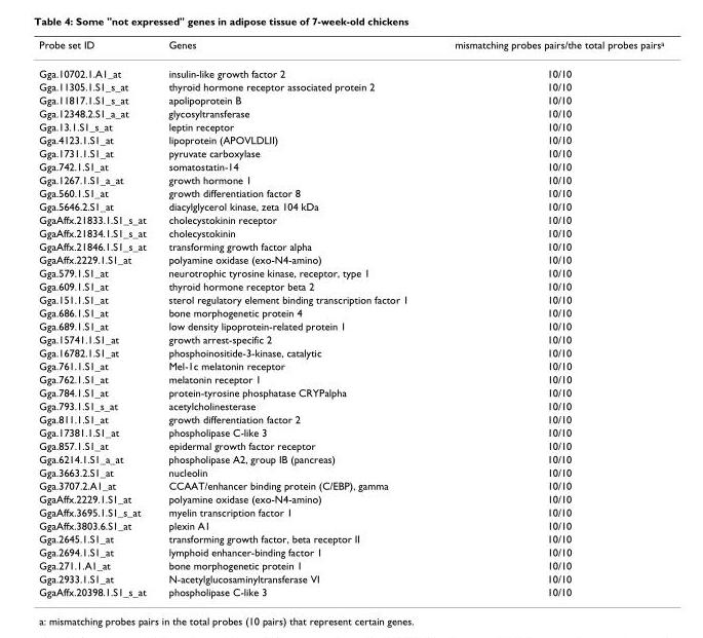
<table><thead><tr><td>Probe set ID</td><td>Genes</td><td>mismatching probes pairs/the total probes pairs<sup>a</sup></td></tr></thead><tbody><tr><td>Gga.10702.1.A1_at</td><td>insulin-like growth factor 2</td><td>10/10</td></tr><tr><td>Gga.11305.1.S1_s_at</td><td>thyroid hormone receptor associated protein 2</td><td>10/10</td></tr><tr><td>Gga.11817.1.S1_s_at</td><td>apolipoprotein B</td><td>10/10</td></tr><tr><td>Gga.12348.2.S1_a_at</td><td>glycosyltransferase</td><td>10/10</td></tr><tr><td>Gga.13.1.S1_s_at</td><td>leptin receptor</td><td>10/10</td></tr><tr><td>Gga.4123.1.S1_at</td><td>lipoprotein (APOVLDLII)</td><td>10/10</td></tr><tr><td>Gga.1731.1.S1_at</td><td>pyruvate carboxylase</td><td>10/10</td></tr><tr><td>Gga.742.1.S1_at</td><td>somatostatin-14</td><td>10/10</td></tr><tr><td>Gga.1267.1.S1_a_at</td><td>growth hormone 1</td><td>10/10</td></tr><tr><td>Gga.560.1.S1_at</td><td>growth differentiation factor 8</td><td>10/10</td></tr><tr><td>Gga.5646.2.S1_at</td><td>diacylglycerol kinase, zeta 104 kDa</td><td>10/10</td></tr><tr><td>GgaAffx.21833.1.S1_s_at</td><td>cholecystokinin receptor</td><td>10/10</td></tr><tr><td>GgaAffx.21834.1.S1_s_at</td><td>cholecystokinin</td><td>10/10</td></tr><tr><td>GgaAffx.21846.1.S1_s_at</td><td>transforming growth factor alpha</td><td>10/10</td></tr><tr><td>GgaAffx.2229.1.S1_at</td><td>polyamine oxidase (exo-N4-amino)</td><td>10/10</td></tr><tr><td>Gga.579.1.S1_at</td><td>neurotrophic tyrosine kinase, receptor, type 1</td><td>10/10</td></tr><tr><td>Gga.609.1.S1_at</td><td>thyroid hormone receptor beta 2</td><td>10/10</td></tr><tr><td>Gga.151.1.S1_at</td><td>sterol regulatory element binding transcription factor 1</td><td>10/10</td></tr><tr><td>Gga.686.1.S1_at</td><td>bone morphogenetic protein 4</td><td>10/10</td></tr><tr><td>Gga.689.1.S1_at</td><td>low density lipoprotein-related protein 1</td><td>10/10</td></tr><tr><td>Gga.15741.1.S1_at</td><td>growth arrest-specific 2</td><td>10/10</td></tr><tr><td>Gga.16782.1.S1_at</td><td>phosphoinositide-3-kinase, catalytic</td><td>10/10</td></tr><tr><td>Gga.761.1.S1_at</td><td>Mel-1c melatonin receptor</td><td>10/10</td></tr><tr><td>Gga.762.1.S1_at</td><td>melatonin receptor 1</td><td>10/10</td></tr><tr><td>Gga.784.1.S1_at</td><td>protein-tyrosine phosphatase CRYPalpha</td><td>10/10</td></tr><tr><td>Gga.793.1.S1_s_at</td><td>acetylcholinesterase</td><td>10/10</td></tr><tr><td>Gga.811.1.S1_at</td><td>growth differentiation factor 2</td><td>10/10</td></tr><tr><td>Gga.17381.1.S1_at</td><td>phospholipase C-like 3</td><td>10/10</td></tr><tr><td>Gga.857.1.S1_at</td><td>epidermal growth factor receptor</td><td>10/10</td></tr><tr><td>Gga.6214.1.S1_a_at</td><td>phospholipase A2, group IB (pancreas)</td><td>10/10</td></tr><tr><td>Gga.3663.2.S1_at</td><td>nucleolin</td><td>10/10</td></tr><tr><td>Gga.3707.2.A1_at</td><td>CCAAT/enhancer binding protein (C/EBP), gamma</td><td>10/10</td></tr><tr><td>GgaAffx.2229.1.S1_at</td><td>polyamine oxidase (exo-N4-amino)</td><td>10/10</td></tr><tr><td>GgaAffx.3695.1.S1_s_at</td><td>myelin transcription factor 1</td><td>10/10</td></tr><tr><td>GgaAffx.3803.6.S1_at</td><td>plexin A1</td><td>10/10</td></tr><tr><td>Gga.2645.1.S1_at</td><td>transforming growth factor, beta receptor II</td><td>10/10</td></tr><tr><td>Gga.2694.1.S1_at</td><td>lymphoid enhancer-binding factor 1</td><td>10/10</td></tr><tr><td>Gga.271.1.A1_at</td><td>bone morphogenetic protein 1</td><td>10/10</td></tr><tr><td>Gga.2933.1.S1_at</td><td>N-acetylglucosaminyltransferase VI</td><td>10/10</td></tr><tr><td>GgaAffx.20398.1.S1_s_at</td><td>phospholipase C-like 3</td><td>10/10</td></tr></tbody></table>